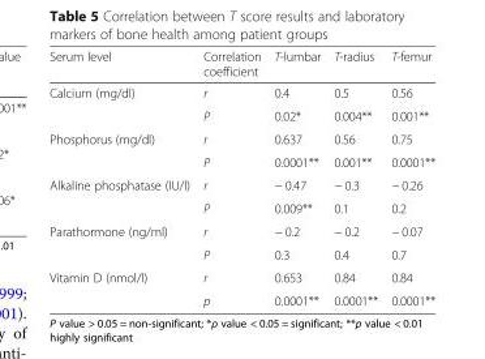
<table><thead><tr><td>Serum level</td><td>Correlation coefficient</td><td>T-lumbar</td><td>T-radius</td><td>T-femur</td></tr></thead><tbody><tr><td rowspan="2">Calcium (mg/dl)</td><td>r</td><td>0.4</td><td>0.5</td><td>0.56</td></tr><tr><td>P</td><td>0.02*</td><td>0.004**</td><td>0.001**</td></tr><tr><td rowspan="2">Phosphorus (mg/dl)</td><td>r</td><td>0.637</td><td>0.56</td><td>0.75</td></tr><tr><td>P</td><td>0.0001**</td><td>0.001**</td><td>0.0001**</td></tr><tr><td rowspan="2">Alkaline phosphatase (IU/l)</td><td>r</td><td>− 0.47</td><td>− 0.3</td><td>− 0.26</td></tr><tr><td>P</td><td>0.009**</td><td>0.1</td><td>0.2</td></tr><tr><td rowspan="2">Parathormone (ng/ml)</td><td>r</td><td>− 0.2</td><td>− 0.2</td><td>− 0.07</td></tr><tr><td>P</td><td>0.3</td><td>0.4</td><td>0.7</td></tr><tr><td rowspan="2">Vitamin D (nmol/l)</td><td>r</td><td>0.653</td><td>0.84</td><td>0.84</td></tr><tr><td>p</td><td>0.0001**</td><td>0.0001**</td><td>0.0001**</td></tr></tbody></table>